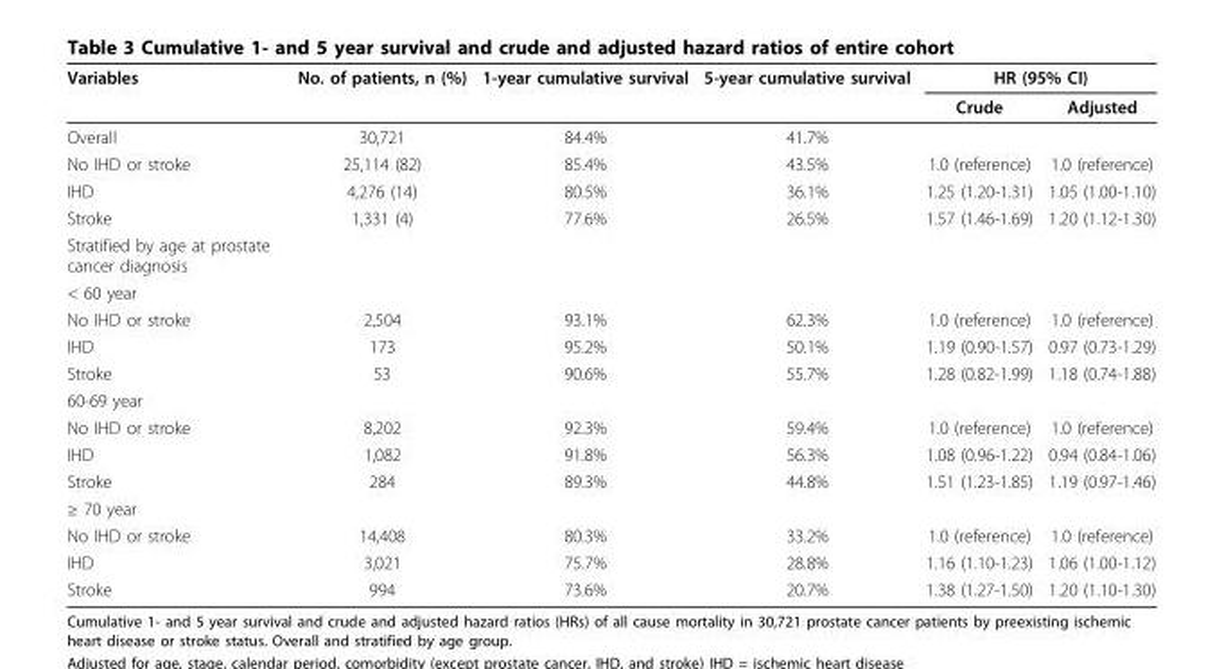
<table><thead><tr><td rowspan="2">Variables</td><td rowspan="2">No. of patients, n (%)</td><td rowspan="2">1-year cumulative survival</td><td rowspan="2">5-year cumulative survival</td><td colspan="2">HR (95% CI)</td></tr><tr><td>Crude</td><td>Adjusted</td></tr></thead><tbody><tr><td>Overall</td><td>30,721</td><td>84.4%</td><td>41.7%</td><td></td><td></td></tr><tr><td>No IHD or stroke</td><td>25,114 (82)</td><td>85.4%</td><td>43.5%</td><td>1.0 (reference)</td><td>1.0 (reference)</td></tr><tr><td>IHD</td><td>4,276 (14)</td><td>80.5%</td><td>36.1%</td><td>1.25 (1.20-1.31)</td><td>1.05 (1.00-1.10)</td></tr><tr><td>Stroke</td><td>1,331 (4)</td><td>77.6%</td><td>26.5%</td><td>1.57 (1.46-1.69)</td><td>1.20 (1.12-1.30)</td></tr><tr><td colspan="6">Stratified by age at prostate cancer diagnosis</td></tr><tr><td colspan="6">&lt; 60 year</td></tr><tr><td>No IHD or stroke</td><td>2,504</td><td>93.1%</td><td>62.3%</td><td>1.0 (reference)</td><td>1.0 (reference)</td></tr><tr><td>IHD</td><td>173</td><td>95.2%</td><td>50.1%</td><td>1.19 (0.90-1.57)</td><td>0.97 (0.73-1.29)</td></tr><tr><td>Stroke</td><td>53</td><td>90.6%</td><td>55.7%</td><td>1.28 (0.82-1.99)</td><td>1.18 (0.74-1.88)</td></tr><tr><td colspan="6">60-69 year</td></tr><tr><td>No IHD or stroke</td><td>8,202</td><td>92.3%</td><td>59.4%</td><td>1.0 (reference)</td><td>1.0 (reference)</td></tr><tr><td>IHD</td><td>1,082</td><td>91.8%</td><td>56.3%</td><td>1.08 (0.96-1.22)</td><td>0.94 (0.84-1.06)</td></tr><tr><td>Stroke</td><td>284</td><td>89.3%</td><td>44.8%</td><td>1.51 (1.23-1.85)</td><td>1.19 (0.97-1.46)</td></tr><tr><td colspan="6">≥ 70 year</td></tr><tr><td>No IHD or stroke</td><td>14,408</td><td>80.3%</td><td>33.2%</td><td>1.0 (reference)</td><td>1.0 (reference)</td></tr><tr><td>IHD</td><td>3,021</td><td>75.7%</td><td>28.8%</td><td>1.16 (1.10-1.23)</td><td>1.06 (1.00-1.12)</td></tr><tr><td>Stroke</td><td>994</td><td>73.6%</td><td>20.7%</td><td>1.38 (1.27-1.50)</td><td>1.20 (1.10-1.30)</td></tr></tbody></table>